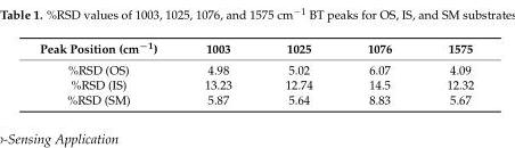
<table><thead><tr><td>Peak Position (cm<sup>−1</sup>)</td><td>1003</td><td>1025</td><td>1076</td><td>1575</td></tr></thead><tbody><tr><td>%RSD (OS)</td><td>4.98</td><td>5.02</td><td>6.07</td><td>4.09</td></tr><tr><td>%RSD (IS)</td><td>13.23</td><td>12.74</td><td>14.5</td><td>12.32</td></tr><tr><td>%RSD (SM)</td><td>5.87</td><td>5.64</td><td>8.83</td><td>5.67</td></tr></tbody></table>